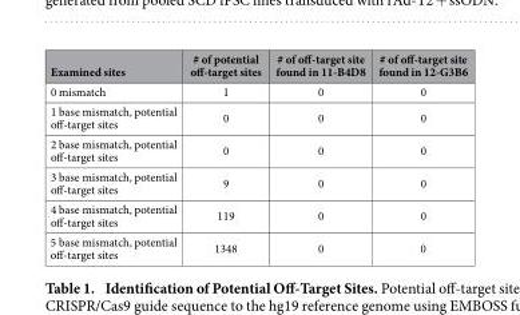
<table><thead><tr><td>Examined sites</td><td># of potential off-target sites</td><td># of off-target site found in 11-B4D8</td><td># of off-target site found in 12-G3B6</td></tr></thead><tbody><tr><td>0 mismatch</td><td>1</td><td>0</td><td>0</td></tr><tr><td>1 base mismatch, potential off-target sites</td><td>0</td><td>0</td><td>0</td></tr><tr><td>2 base mismatch, potential off-target sites</td><td>0</td><td>0</td><td>0</td></tr><tr><td>3 base mismatch, potential off-target sites</td><td>9</td><td>0</td><td>0</td></tr><tr><td>4 base mismatch, potential off-target sites</td><td>119</td><td>0</td><td>0</td></tr><tr><td>5 base mismatch, potential off-target sites</td><td>1348</td><td>0</td><td>0</td></tr></tbody></table>